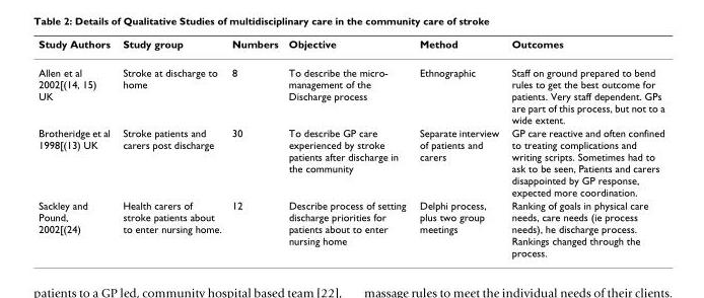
<table><thead><tr><td>Study Authors</td><td>Study group</td><td>Numbers</td><td>Objective</td><td>Method</td><td>Outcomes</td></tr></thead><tbody><tr><td>Allen et al 2002[(14, 15) UK</td><td>Stroke at discharge to home</td><td>8</td><td>To describe the micro- management of the Discharge process</td><td>Ethnographic</td><td>Staff on ground prepared to bend rules to get the best outcome for patients. Very staff dependent. GPs are part of this process, but not to a wide extent.</td></tr><tr><td>Brotheridge et al 1998[(13) UK</td><td>Stroke patients and carers post discharge</td><td>30</td><td>To describe GP care experienced by stroke patients after discharge in the community</td><td>Separate interview of patients and carers</td><td>GP care reactive and often confined to treating complications and writing scripts. Sometimes had to ask to be seen, Patients and carers disappointed by GP response, expected more coordination.</td></tr><tr><td>Sackley and Pound, 2002[(24)</td><td>Health carers of stroke patients about to enter nursing home.</td><td>12</td><td>Describe process of setting discharge priorities for patients about to enter nursing home</td><td>Delphi process, plus two group meetings</td><td>Ranking of goals in physical care needs, care needs (ie process needs), he discharge process. Rankings changed through the process.</td></tr></tbody></table>